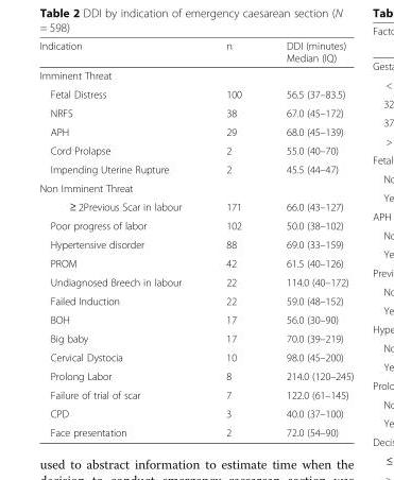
<table><thead><tr><td>Indication</td><td>n</td><td>DDI (minutes) Median (IQ)</td></tr></thead><tbody><tr><td colspan="3">Imminent Threat</td></tr><tr><td>Fetal Distress</td><td>100</td><td>56.5 (37–83.5)</td></tr><tr><td>NRFS</td><td>38</td><td>67.0 (45–172)</td></tr><tr><td>APH</td><td>29</td><td>68.0 (45–139)</td></tr><tr><td>Cord Prolapse</td><td>2</td><td>55.0 (40–70)</td></tr><tr><td>Impending Uterine Rupture</td><td>2</td><td>45.5 (44–47)</td></tr><tr><td colspan="3">Non Imminent Threat</td></tr><tr><td>≥ 2Previous Scar in labour</td><td>171</td><td>66.0 (43–127)</td></tr><tr><td>Poor progress of labor</td><td>102</td><td>50.0 (38–102)</td></tr><tr><td>Hypertensive disorder</td><td>88</td><td>69.0 (33–159)</td></tr><tr><td>PROM</td><td>42</td><td>61.5 (40–126)</td></tr><tr><td>Undiagnosed Breech in labour</td><td>22</td><td>114.0 (40–172)</td></tr><tr><td>Failed Induction</td><td>22</td><td>59.0 (48–152)</td></tr><tr><td>BOH</td><td>17</td><td>56.0 (30–90)</td></tr><tr><td>Big baby</td><td>17</td><td>70.0 (39–219)</td></tr><tr><td>Cervical Dystocia</td><td>10</td><td>98.0 (45–200)</td></tr><tr><td>Prolong Labor</td><td>8</td><td>214.0 (120–245)</td></tr><tr><td>Failure of trial of scar</td><td>7</td><td>122.0 (61–145)</td></tr><tr><td>CPD</td><td>3</td><td>40.0 (37–100)</td></tr><tr><td>Face presentation</td><td>2</td><td>72.0 (54–90)</td></tr></tbody></table>